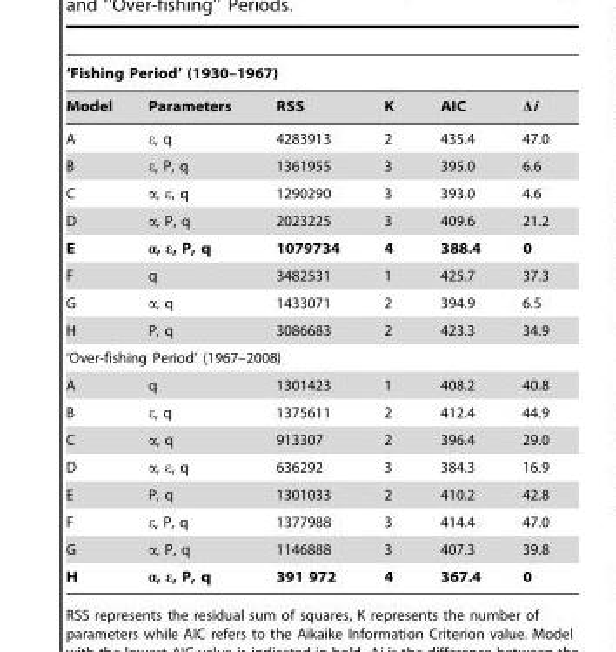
<table><thead><tr><td colspan="6">‘Fishing Period’ (1930–1967)</td></tr><tr><td>Model</td><td>Parameters</td><td>RSS</td><td>K</td><td>AIC</td><td>Δi</td></tr></thead><tbody><tr><td>A</td><td>ε, q</td><td>4283913</td><td>2</td><td>435.4</td><td>47.0</td></tr><tr><td>B</td><td>ε, P, q</td><td>1361955</td><td>3</td><td>395.0</td><td>6.6</td></tr><tr><td>C</td><td>α, ε, q</td><td>1290290</td><td>3</td><td>393.0</td><td>4.6</td></tr><tr><td>D</td><td>α, P, q</td><td>2023225</td><td>3</td><td>409.6</td><td>21.2</td></tr><tr><td>E</td><td>α, ε, P, q</td><td>1079734</td><td>4</td><td>388.4</td><td>0</td></tr><tr><td>F</td><td>q</td><td>3482531</td><td>1</td><td>425.7</td><td>37.3</td></tr><tr><td>G</td><td>α, q</td><td>1433071</td><td>2</td><td>394.9</td><td>6.5</td></tr><tr><td>H</td><td>P, q</td><td>3086683</td><td>2</td><td>423.3</td><td>34.9</td></tr><tr><td colspan="6">‘Over-fishing Period’ (1967–2008)</td></tr><tr><td>A</td><td>q</td><td>1301423</td><td>1</td><td>408.2</td><td>40.8</td></tr><tr><td>B</td><td>ε, q</td><td>1375611</td><td>2</td><td>412.4</td><td>44.9</td></tr><tr><td>C</td><td>α, q</td><td>913307</td><td>2</td><td>396.4</td><td>29.0</td></tr><tr><td>D</td><td>α, ε, q</td><td>636292</td><td>3</td><td>384.3</td><td>16.9</td></tr><tr><td>E</td><td>P, q</td><td>1301033</td><td>2</td><td>410.2</td><td>42.8</td></tr><tr><td>F</td><td>ε, P, q</td><td>1377988</td><td>3</td><td>414.4</td><td>47.0</td></tr><tr><td>G</td><td>α, P, q</td><td>1146888</td><td>3</td><td>407.3</td><td>39.8</td></tr><tr><td>H</td><td>α, ε, P, q</td><td>391 972</td><td>4</td><td>367.4</td><td>0</td></tr></tbody></table>